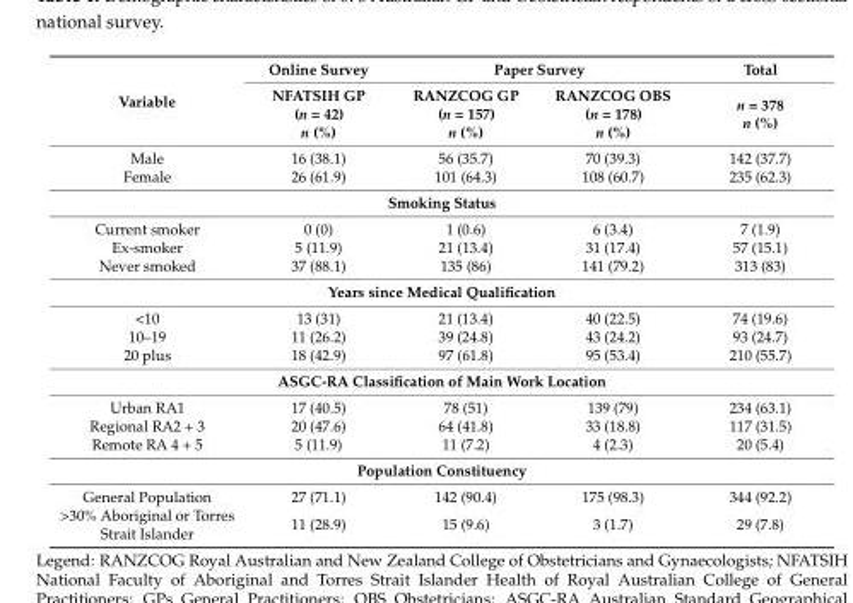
<table><thead><tr><td rowspan="2">Variable</td><td rowspan="2">Online Survey NFATSIH GP (n = 42) n (%)</td><td colspan="2">Paper Survey</td><td rowspan="2">Total n = 378 n (%)</td></tr><tr><td>RANZCOG GP (n = 157) n (%)</td><td>RANZCOG OBS (n = 178) n (%)</td></tr></thead><tbody><tr><td>Male</td><td>16 (38.1)</td><td>56 (35.7)</td><td>70 (39.3)</td><td>142 (37.7)</td></tr><tr><td>Female</td><td>26 (61.9)</td><td>101 (64.3)</td><td>108 (60.7)</td><td>235 (62.3)</td></tr><tr><td colspan="5">Smoking Status</td></tr><tr><td>Current smoker</td><td>0 (0)</td><td>1 (0.6)</td><td>6 (3.4)</td><td>7 (1.9)</td></tr><tr><td>Ex-smoker</td><td>5 (11.9)</td><td>21 (13.4)</td><td>31 (17.4)</td><td>57 (15.1)</td></tr><tr><td>Never smoked</td><td>37 (88.1)</td><td>135 (86)</td><td>141 (79.2)</td><td>313 (83)</td></tr><tr><td colspan="5">Years since Medical Qualification</td></tr><tr><td>&lt;10</td><td>13 (31)</td><td>21 (13.4)</td><td>40 (22.5)</td><td>74 (19.6)</td></tr><tr><td>10–19</td><td>11 (26.2)</td><td>39 (24.8)</td><td>43 (24.2)</td><td>93 (24.7)</td></tr><tr><td>20 plus</td><td>18 (42.9)</td><td>97 (61.8)</td><td>95 (53.4)</td><td>210 (55.7)</td></tr><tr><td colspan="5">ASGC-RA Classification of Main Work Location</td></tr><tr><td>Urban RA1</td><td>17 (40.5)</td><td>78 (51)</td><td>139 (79)</td><td>234 (63.1)</td></tr><tr><td>Regional RA2 + 3</td><td>20 (47.6)</td><td>64 (41.8)</td><td>33 (18.8)</td><td>117 (31.5)</td></tr><tr><td>Remote RA 4 + 5</td><td>5 (11.9)</td><td>11 (7.2)</td><td>4 (2.3)</td><td>20 (5.4)</td></tr><tr><td colspan="5">Population Constituency</td></tr><tr><td>General Population</td><td>27 (71.1)</td><td>142 (90.4)</td><td>175 (98.3)</td><td>344 (92.2)</td></tr><tr><td>&gt;30% Aboriginal or Torres Strait Islander</td><td>11 (28.9)</td><td>15 (9.6)</td><td>3 (1.7)</td><td>29 (7.8)</td></tr></tbody></table>